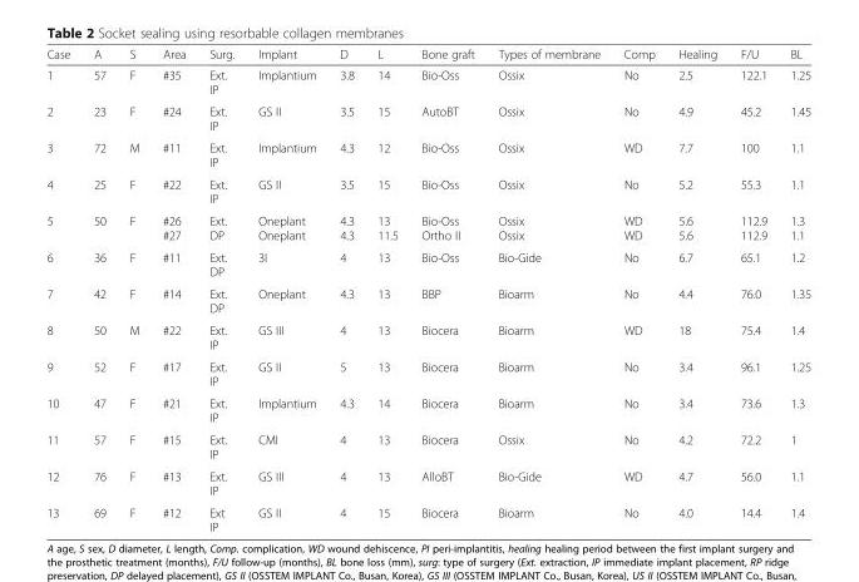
<table><thead><tr><td>Case</td><td>A</td><td>S</td><td>Area</td><td>Surg.</td><td>Implant</td><td>D</td><td>L</td><td>Bone graft</td><td>Types of membrane</td><td>Comp</td><td>Healing</td><td>F/U</td><td>BL</td></tr></thead><tbody><tr><td>1</td><td>57</td><td>F</td><td>#35</td><td>Ext. IP</td><td>Implantium</td><td>3.8</td><td>14</td><td>Bio-Oss</td><td>Ossix</td><td>No</td><td>2.5</td><td>122.1</td><td>1.25</td></tr><tr><td>2</td><td>23</td><td>F</td><td>#24</td><td>Ext. IP</td><td>GS II</td><td>3.5</td><td>15</td><td>AutoBT</td><td>Ossix</td><td>No</td><td>4.9</td><td>45.2</td><td>1.45</td></tr><tr><td>3</td><td>72</td><td>M</td><td>#11</td><td>Ext. IP</td><td>Implantium</td><td>4.3</td><td>12</td><td>Bio-Oss</td><td>Ossix</td><td>WD</td><td>7.7</td><td>100</td><td>1.1</td></tr><tr><td>4</td><td>25</td><td>F</td><td>#22</td><td>Ext. IP</td><td>GS II</td><td>3.5</td><td>15</td><td>Bio-Oss</td><td>Ossix</td><td>No</td><td>5.2</td><td>55.3</td><td>1.1</td></tr><tr><td>5</td><td>50</td><td>F</td><td>#26 #27</td><td>Ext. DP</td><td>Oneplant Oneplant</td><td>4.3 4.3</td><td>13 11.5</td><td>Bio-Oss Ortho II</td><td>Ossix Ossix</td><td>WD WD</td><td>5.6 5.6</td><td>112.9 112.9</td><td>1.3 1.1</td></tr><tr><td>6</td><td>36</td><td>F</td><td>#11</td><td>Ext. DP</td><td>3I</td><td>4</td><td>13</td><td>Bio-Oss</td><td>Bio-Gide</td><td>No</td><td>6.7</td><td>65.1</td><td>1.2</td></tr><tr><td>7</td><td>42</td><td>F</td><td>#14</td><td>Ext. DP</td><td>Oneplant</td><td>4.3</td><td>13</td><td>BBP</td><td>Bioarm</td><td>No</td><td>4.4</td><td>76.0</td><td>1.35</td></tr><tr><td>8</td><td>50</td><td>M</td><td>#22</td><td>Ext. IP</td><td>GS III</td><td>4</td><td>13</td><td>Biocera</td><td>Bioarm</td><td>WD</td><td>18</td><td>75.4</td><td>1.4</td></tr><tr><td>9</td><td>52</td><td>F</td><td>#17</td><td>Ext. IP</td><td>GS II</td><td>5</td><td>13</td><td>Biocera</td><td>Bioarm</td><td>No</td><td>3.4</td><td>96.1</td><td>1.25</td></tr><tr><td>10</td><td>47</td><td>F</td><td>#21</td><td>Ext. IP</td><td>Implantium</td><td>4.3</td><td>14</td><td>Biocera</td><td>Bioarm</td><td>No</td><td>3.4</td><td>73.6</td><td>1.3</td></tr><tr><td>11</td><td>57</td><td>F</td><td>#15</td><td>Ext. IP</td><td>CMI</td><td>4</td><td>13</td><td>Biocera</td><td>Ossix</td><td>No</td><td>4.2</td><td>72.2</td><td>1</td></tr><tr><td>12</td><td>76</td><td>F</td><td>#13</td><td>Ext. IP</td><td>GS III</td><td>4</td><td>13</td><td>AlloBT</td><td>Bio-Gide</td><td>WD</td><td>4.7</td><td>56.0</td><td>1.1</td></tr><tr><td>13</td><td>69</td><td>F</td><td>#12</td><td>Ext IP</td><td>GS II</td><td>4</td><td>15</td><td>Biocera</td><td>Bioarm</td><td>No</td><td>4.0</td><td>14.4</td><td>1.4</td></tr></tbody></table>